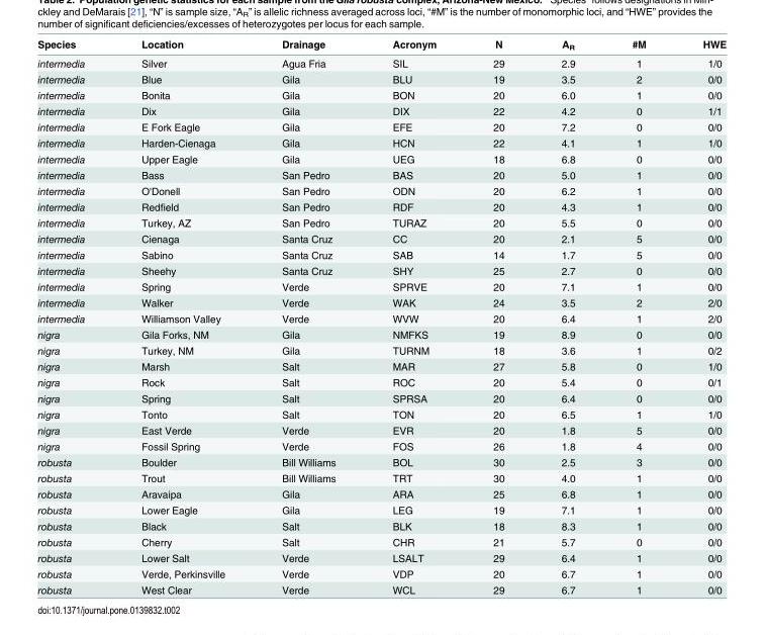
<table><thead><tr><td>Species</td><td>Location</td><td>Drainage</td><td>Acronym</td><td>N</td><td>A<sub>R</sub></td><td>#M</td><td>HWE</td></tr></thead><tbody><tr><td>intermedia</td><td>Silver</td><td>Agua Fria</td><td>SIL</td><td>29</td><td>2.9</td><td>1</td><td>1/0</td></tr><tr><td>intermedia</td><td>Blue</td><td>Gila</td><td>BLU</td><td>19</td><td>3.5</td><td>2</td><td>0/0</td></tr><tr><td>intermedia</td><td>Bonita</td><td>Gila</td><td>BON</td><td>20</td><td>6.0</td><td>1</td><td>0/0</td></tr><tr><td>intermedia</td><td>Dix</td><td>Gila</td><td>DIX</td><td>22</td><td>4.2</td><td>0</td><td>1/1</td></tr><tr><td>intermedia</td><td>E Fork Eagle</td><td>Gila</td><td>EFE</td><td>20</td><td>7.2</td><td>0</td><td>0/0</td></tr><tr><td>intermedia</td><td>Harden-Cienaga</td><td>Gila</td><td>HCN</td><td>22</td><td>4.1</td><td>1</td><td>1/0</td></tr><tr><td>intermedia</td><td>Upper Eagle</td><td>Gila</td><td>UEG</td><td>18</td><td>6.8</td><td>0</td><td>0/0</td></tr><tr><td>intermedia</td><td>Bass</td><td>San Pedro</td><td>BAS</td><td>20</td><td>5.0</td><td>1</td><td>0/0</td></tr><tr><td>intermedia</td><td>O&#x27;Donell</td><td>San Pedro</td><td>ODN</td><td>20</td><td>6.2</td><td>1</td><td>0/0</td></tr><tr><td>intermedia</td><td>Redfield</td><td>San Pedro</td><td>RDF</td><td>20</td><td>4.3</td><td>1</td><td>0/0</td></tr><tr><td>intermedia</td><td>Turkey, AZ</td><td>San Pedro</td><td>TURAZ</td><td>20</td><td>5.5</td><td>0</td><td>0/0</td></tr><tr><td>intermedia</td><td>Cienaga</td><td>Santa Cruz</td><td>CC</td><td>20</td><td>2.1</td><td>5</td><td>0/0</td></tr><tr><td>intermedia</td><td>Sabino</td><td>Santa Cruz</td><td>SAB</td><td>14</td><td>1.7</td><td>5</td><td>0/0</td></tr><tr><td>intermedia</td><td>Sheehy</td><td>Santa Cruz</td><td>SHY</td><td>25</td><td>2.7</td><td>0</td><td>0/0</td></tr><tr><td>intermedia</td><td>Spring</td><td>Verde</td><td>SPRVE</td><td>20</td><td>7.1</td><td>1</td><td>0/0</td></tr><tr><td>intermedia</td><td>Walker</td><td>Verde</td><td>WAK</td><td>24</td><td>3.5</td><td>2</td><td>2/0</td></tr><tr><td>intermedia</td><td>Williamson Valley</td><td>Verde</td><td>WVW</td><td>20</td><td>6.4</td><td>1</td><td>2/0</td></tr><tr><td>nigra</td><td>Gila Forks, NM</td><td>Gila</td><td>NMFKS</td><td>19</td><td>8.9</td><td>0</td><td>0/0</td></tr><tr><td>nigra</td><td>Turkey, NM</td><td>Gila</td><td>TURNM</td><td>18</td><td>3.6</td><td>1</td><td>0/2</td></tr><tr><td>nigra</td><td>Marsh</td><td>Salt</td><td>MAR</td><td>27</td><td>5.8</td><td>0</td><td>1/0</td></tr><tr><td>nigra</td><td>Rock</td><td>Salt</td><td>ROC</td><td>20</td><td>5.4</td><td>0</td><td>0/1</td></tr><tr><td>nigra</td><td>Spring</td><td>Salt</td><td>SPRSA</td><td>20</td><td>6.4</td><td>0</td><td>0/0</td></tr><tr><td>nigra</td><td>Tonto</td><td>Salt</td><td>TON</td><td>20</td><td>6.5</td><td>1</td><td>1/0</td></tr><tr><td>nigra</td><td>East Verde</td><td>Verde</td><td>EVR</td><td>20</td><td>1.8</td><td>5</td><td>0/0</td></tr><tr><td>nigra</td><td>Fossil Spring</td><td>Verde</td><td>FOS</td><td>26</td><td>1.8</td><td>4</td><td>0/0</td></tr><tr><td>robusta</td><td>Boulder</td><td>Bill Williams</td><td>BOL</td><td>30</td><td>2.5</td><td>3</td><td>0/0</td></tr><tr><td>robusta</td><td>Trout</td><td>Bill Williams</td><td>TRT</td><td>30</td><td>4.0</td><td>1</td><td>0/0</td></tr><tr><td>robusta</td><td>Aravaipa</td><td>Gila</td><td>ARA</td><td>25</td><td>6.8</td><td>1</td><td>0/0</td></tr><tr><td>robusta</td><td>Lower Eagle</td><td>Gila</td><td>LEG</td><td>19</td><td>7.1</td><td>1</td><td>0/0</td></tr><tr><td>robusta</td><td>Black</td><td>Salt</td><td>BLK</td><td>18</td><td>8.3</td><td>1</td><td>0/0</td></tr><tr><td>robusta</td><td>Cherry</td><td>Salt</td><td>CHR</td><td>21</td><td>5.7</td><td>0</td><td>0/0</td></tr><tr><td>robusta</td><td>Lower Salt</td><td>Verde</td><td>LSALT</td><td>29</td><td>6.4</td><td>1</td><td>0/0</td></tr><tr><td>robusta</td><td>Verde, Perkinsville</td><td>Verde</td><td>VDP</td><td>20</td><td>6.7</td><td>1</td><td>0/0</td></tr><tr><td>robusta</td><td>West Clear</td><td>Verde</td><td>WCL</td><td>29</td><td>6.7</td><td>1</td><td>0/0</td></tr></tbody></table>